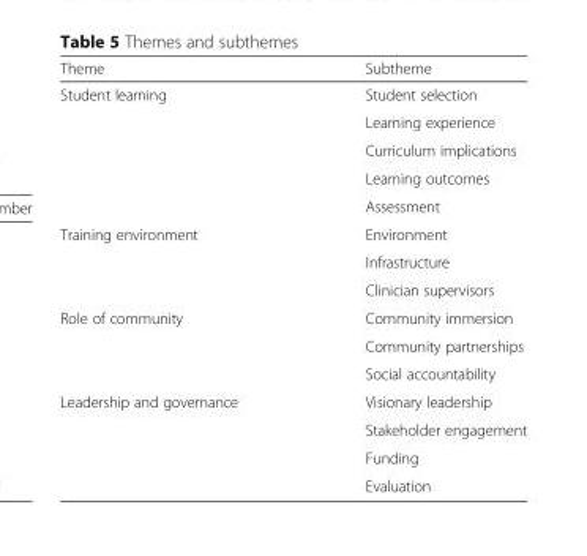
<table><thead><tr><td>Theme</td><td>Subtheme</td></tr></thead><tbody><tr><td rowspan="5">Student learning</td><td>Student selection</td></tr><tr><td>Learning experience</td></tr><tr><td>Curriculum implications</td></tr><tr><td>Learning outcomes</td></tr><tr><td>Assessment</td></tr><tr><td rowspan="3">Training environment</td><td>Environment</td></tr><tr><td>Infrastructure</td></tr><tr><td>Clinician supervisors</td></tr><tr><td rowspan="3">Role of community</td><td>Community immersion</td></tr><tr><td>Community partnerships</td></tr><tr><td>Social accountability</td></tr><tr><td rowspan="4">Leadership and governance</td><td>Visionary leadership</td></tr><tr><td>Stakeholder engagement</td></tr><tr><td>Funding</td></tr><tr><td>Evaluation</td></tr></tbody></table>